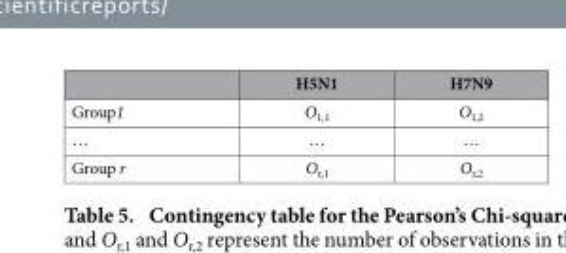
<table><thead><tr><td></td><td>H5N1</td><td>H7N9</td></tr></thead><tbody><tr><td>Group1</td><td>O<sub>1,1</sub></td><td>O<sub>1,2</sub></td></tr><tr><td>…</td><td>…</td><td>…</td></tr><tr><td>Group r</td><td>O<sub>r,1</sub></td><td>O<sub>r,2</sub></td></tr></tbody></table>